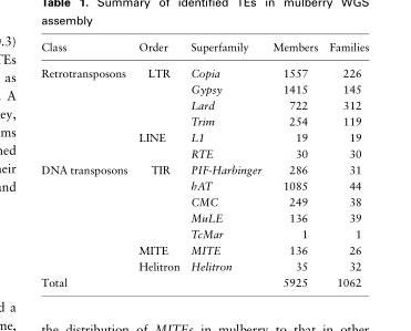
<table><thead><tr><td>Class</td><td>Order</td><td>Superfamily</td><td>Members</td><td>Families</td></tr></thead><tbody><tr><td rowspan="6">Retrotransposons</td><td>LTR</td><td>Copia</td><td>1557</td><td>226</td></tr><tr><td></td><td>Gypsy</td><td>1415</td><td>145</td></tr><tr><td></td><td>Lard</td><td>722</td><td>312</td></tr><tr><td></td><td>Trim</td><td>254</td><td>119</td></tr><tr><td>LINE</td><td>L1</td><td>19</td><td>19</td></tr><tr><td></td><td>RTE</td><td>30</td><td>30</td></tr><tr><td rowspan="7">DNA transposons</td><td>TIR</td><td>PIF-Harbinger</td><td>286</td><td>31</td></tr><tr><td></td><td>hAT</td><td>1085</td><td>44</td></tr><tr><td></td><td>CMC</td><td>249</td><td>38</td></tr><tr><td></td><td>MuLE</td><td>136</td><td>39</td></tr><tr><td></td><td>TcMar</td><td>1</td><td>1</td></tr><tr><td>MITE</td><td>MITE</td><td>136</td><td>26</td></tr><tr><td>Helitron</td><td>Helitron</td><td>35</td><td>32</td></tr><tr><td>Total</td><td></td><td></td><td>5925</td><td>1062</td></tr></tbody></table>